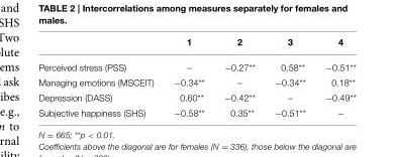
<table><thead><tr><td></td><td>1</td><td>2</td><td>3</td><td>4</td></tr></thead><tbody><tr><td>Perceived stress (PSS)</td><td>–</td><td>−0.27**</td><td>0.58**</td><td>−0.51**</td></tr><tr><td>Managing emotions (MSCEIT)</td><td>−0.34**</td><td>–</td><td>−0.34**</td><td>0.18**</td></tr><tr><td>Depression (DASS)</td><td>0.60**</td><td>−0.42**</td><td>–</td><td>−0.49**</td></tr><tr><td>Subjective happiness (SHS)</td><td>−0.58**</td><td>0.35**</td><td>−0.51**</td><td>–</td></tr></tbody></table>